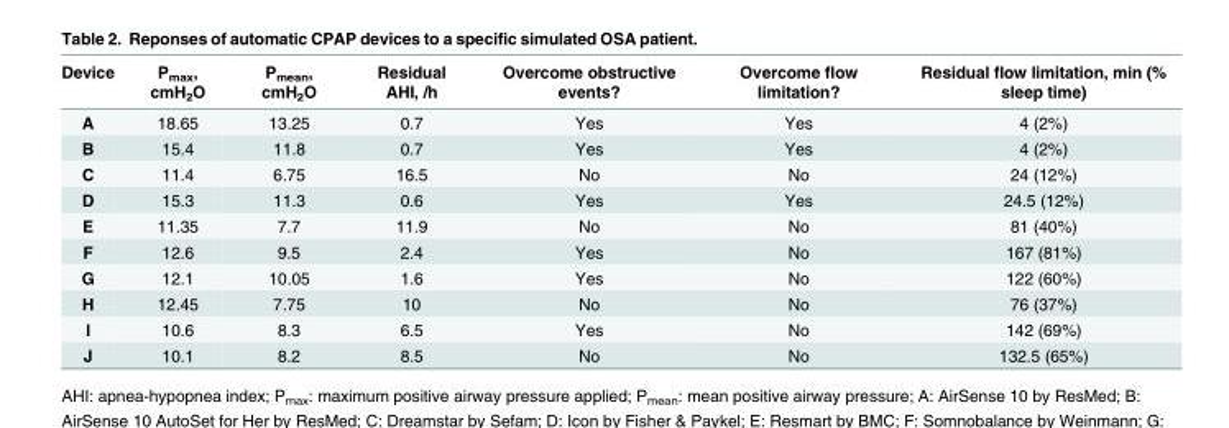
<table><thead><tr><td>Device</td><td>P<sub>max</sub>, cmH<sub>2</sub>O</td><td>P<sub>mean</sub>, cmH<sub>2</sub>O</td><td>Residual AHI, /h</td><td>Overcome obstructive events?</td><td>Overcome flow limitation?</td><td>Residual flow limitation, min (% sleep time)</td></tr></thead><tbody><tr><td>A</td><td>18.65</td><td>13.25</td><td>0.7</td><td>Yes</td><td>Yes</td><td>4 (2%)</td></tr><tr><td>B</td><td>15.4</td><td>11.8</td><td>0.7</td><td>Yes</td><td>Yes</td><td>4 (2%)</td></tr><tr><td>C</td><td>11.4</td><td>6.75</td><td>16.5</td><td>No</td><td>No</td><td>24 (12%)</td></tr><tr><td>D</td><td>15.3</td><td>11.3</td><td>0.6</td><td>Yes</td><td>Yes</td><td>24.5 (12%)</td></tr><tr><td>E</td><td>11.35</td><td>7.7</td><td>11.9</td><td>No</td><td>No</td><td>81 (40%)</td></tr><tr><td>F</td><td>12.6</td><td>9.5</td><td>2.4</td><td>Yes</td><td>No</td><td>167 (81%)</td></tr><tr><td>G</td><td>12.1</td><td>10.05</td><td>1.6</td><td>Yes</td><td>No</td><td>122 (60%)</td></tr><tr><td>H</td><td>12.45</td><td>7.75</td><td>10</td><td>No</td><td>No</td><td>76 (37%)</td></tr><tr><td>I</td><td>10.6</td><td>8.3</td><td>6.5</td><td>Yes</td><td>No</td><td>142 (69%)</td></tr><tr><td>J</td><td>10.1</td><td>8.2</td><td>8.5</td><td>No</td><td>No</td><td>132.5 (65%)</td></tr></tbody></table>